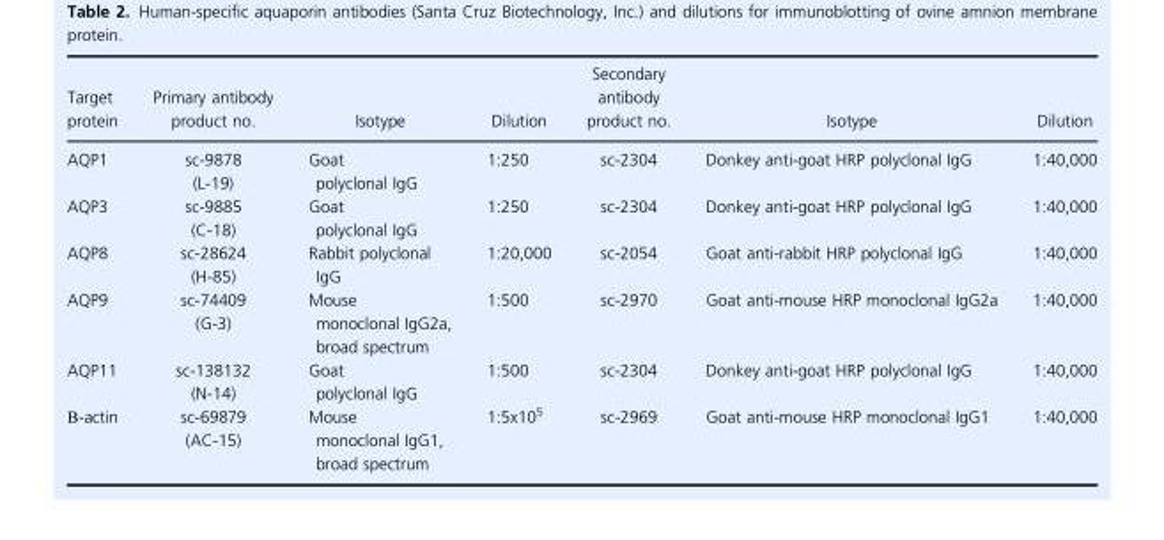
<table><thead><tr><td>Target protein</td><td>Primary antibody product no.</td><td>Isotype</td><td>Dilution</td><td>Secondary antibody product no.</td><td>Isotype</td><td>Dilution</td></tr></thead><tbody><tr><td>AQP1</td><td>sc-9878 (L-19)</td><td>Goat polyclonal IgG</td><td>1:250</td><td>sc-2304</td><td>Donkey anti-goat HRP polyclonal IgG</td><td>1:40,000</td></tr><tr><td>AQP3</td><td>sc-9885 (C-18)</td><td>Goat polyclonal IgG</td><td>1:250</td><td>sc-2304</td><td>Donkey anti-goat HRP polyclonal IgG</td><td>1:40,000</td></tr><tr><td>AQP8</td><td>sc-28624 (H-85)</td><td>Rabbit polyclonal IgG</td><td>1:20,000</td><td>sc-2054</td><td>Goat anti-rabbit HRP polyclonal IgG</td><td>1:40,000</td></tr><tr><td>AQP9</td><td>sc-74409 (G-3)</td><td>Mouse monoclonal IgG2a, broad spectrum</td><td>1:500</td><td>sc-2970</td><td>Goat anti-mouse HRP monoclonal IgG2a</td><td>1:40,000</td></tr><tr><td>AQP11</td><td>sc-138132 (N-14)</td><td>Goat polyclonal IgG</td><td>1:500</td><td>sc-2304</td><td>Donkey anti-goat HRP polyclonal IgG</td><td>1:40,000</td></tr><tr><td>Β-actin</td><td>sc-69879 (AC-15)</td><td>Mouse monoclonal IgG1, broad spectrum</td><td>1:5x10<sup>5</sup></td><td>sc-2969</td><td>Goat anti-mouse HRP monoclonal IgG1</td><td>1:40,000</td></tr></tbody></table>